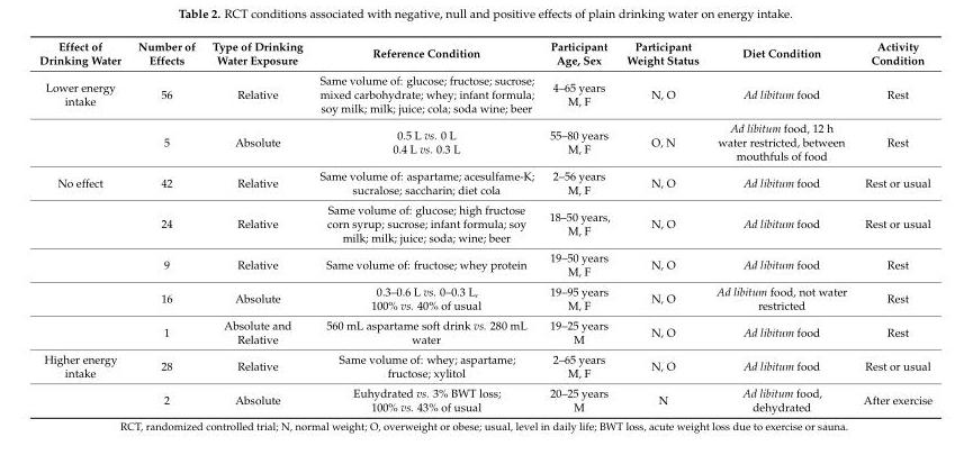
<table><thead><tr><td>Effect of Drinking Water</td><td>Number of Effects</td><td>Type of Drinking Water Exposure</td><td>Reference Condition</td><td>Participant Age, Sex</td><td>Participant Weight Status</td><td>Diet Condition</td><td>Activity Condition</td></tr></thead><tbody><tr><td rowspan="2">Lower energy intake</td><td>56</td><td>Relative</td><td>Same volume of: glucose; fructose; sucrose; mixed carbohydrate; whey; infant formula; soy milk; milk; juice; cola; soda wine; beer</td><td>4–65 years M, F</td><td>N, O</td><td>Ad libitum food</td><td>Rest</td></tr><tr><td>5</td><td>Absolute</td><td>0.5 L vs. 0 L 0.4 L vs. 0.3 L</td><td>55–80 years M, F</td><td>O, N</td><td>Ad libitum food, 12 h water restricted, between mouthfuls of food</td><td>Rest</td></tr><tr><td rowspan="5">No effect</td><td>42</td><td>Relative</td><td>Same volume of: aspartame; acesulfame-K; sucralose; saccharin; diet cola</td><td>2–56 years M, F</td><td>N, O</td><td>Ad libitum food</td><td>Rest or usual</td></tr><tr><td>24</td><td>Relative</td><td>Same volume of: glucose; high fructose corn syrup; sucrose; infant formula; soy milk; milk; juice; soda; wine; beer</td><td>18–50 years, M, F</td><td>N, O</td><td>Ad libitum food</td><td>Rest or usual</td></tr><tr><td>9</td><td>Relative</td><td>Same volume of: fructose; whey protein</td><td>19–50 years M, F</td><td>N, O</td><td>Ad libitum food</td><td>Rest</td></tr><tr><td>16</td><td>Absolute</td><td>0.3–0.6 L vs. 0–0.3 L, 100% vs. 40% of usual</td><td>19–95 years M, F</td><td>N, O</td><td>Ad libitum food, not water restricted</td><td>Rest</td></tr><tr><td>1</td><td>Absolute and Relative</td><td>560 mL aspartame soft drink vs. 280 mL water</td><td>19–25 years M</td><td>N, O</td><td>Ad libitum food</td><td>Rest</td></tr><tr><td rowspan="2">Higher energy intake</td><td>28</td><td>Relative</td><td>Same volume of: whey; aspartame; fructose; xylitol</td><td>2–65 years M, F</td><td>N, O</td><td>Ad libitum food</td><td>Rest or usual</td></tr><tr><td>2</td><td>Absolute</td><td>Euhydrated vs. 3% BWT loss; 100% vs. 43% of usual</td><td>20–25 years M</td><td>N</td><td>Ad libitum food, dehydrated</td><td>After exercise</td></tr></tbody></table>